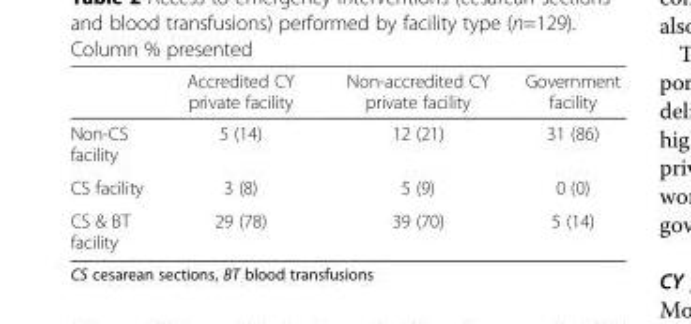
<table><thead><tr><td></td><td>Accredited CY private facility</td><td>Non-accredited CY private facility</td><td>Government facility</td></tr></thead><tbody><tr><td>Non-CS facility</td><td>5 (14)</td><td>12 (21)</td><td>31 (86)</td></tr><tr><td>CS facility</td><td>3 (8)</td><td>5 (9)</td><td>0 (0)</td></tr><tr><td>CS &amp; BT facility</td><td>29 (78)</td><td>39 (70)</td><td>5 (14)</td></tr></tbody></table>